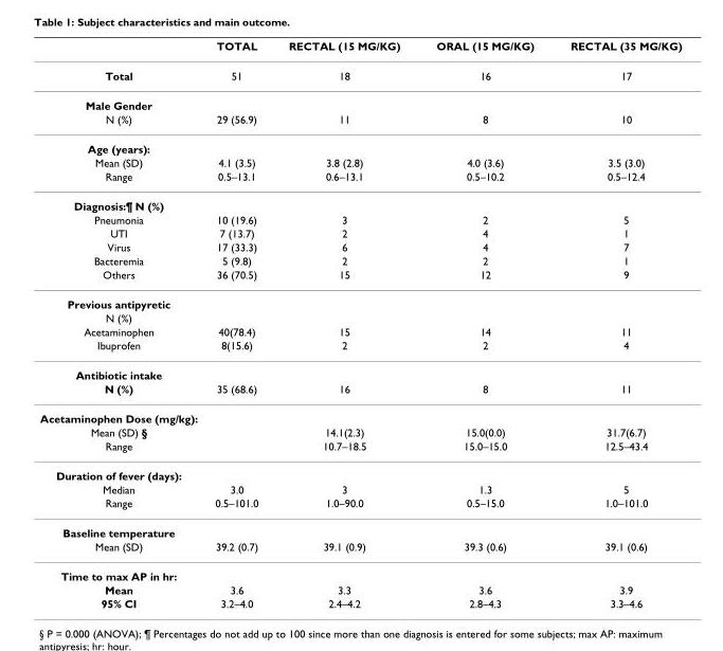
<table><thead><tr><td></td><td>TOTAL</td><td>RECTAL (15 MG/KG)</td><td>ORAL (15 MG/KG)</td><td>RECTAL (35 MG/KG)</td></tr></thead><tbody><tr><td>Total</td><td>51</td><td>18</td><td>16</td><td>17</td></tr><tr><td colspan="5">Male Gender</td></tr><tr><td>N (%)</td><td>29 (56.9)</td><td>11</td><td>8</td><td>10</td></tr><tr><td colspan="5">Age (years):</td></tr><tr><td>Mean (SD)</td><td>4.1 (3.5)</td><td>3.8 (2.8)</td><td>4.0 (3.6)</td><td>3.5 (3.0)</td></tr><tr><td>Range</td><td>0.5–13.1</td><td>0.6–13.1</td><td>0.5–10.2</td><td>0.5–12.4</td></tr><tr><td colspan="5">Diagnosis:¶ N (%)</td></tr><tr><td>Pneumonia</td><td>10 (19.6)</td><td>3</td><td>2</td><td>5</td></tr><tr><td>UTI</td><td>7 (13.7)</td><td>2</td><td>4</td><td>1</td></tr><tr><td>Virus</td><td>17 (33.3)</td><td>6</td><td>4</td><td>7</td></tr><tr><td>Bacteremia</td><td>5 (9.8)</td><td>2</td><td>2</td><td>1</td></tr><tr><td>Others</td><td>36 (70.5)</td><td>15</td><td>12</td><td>9</td></tr><tr><td colspan="5">Previous antipyretic</td></tr><tr><td colspan="5">N (%)</td></tr><tr><td>Acetaminophen</td><td>40(78.4)</td><td>15</td><td>14</td><td>11</td></tr><tr><td>Ibuprofen</td><td>8(15.6)</td><td>2</td><td>2</td><td>4</td></tr><tr><td colspan="5">Antibiotic intake</td></tr><tr><td>N (%)</td><td>35 (68.6)</td><td>16</td><td>8</td><td>11</td></tr><tr><td colspan="5">Acetaminophen Dose (mg/kg):</td></tr><tr><td>Mean (SD) §</td><td></td><td>14.1(2.3)</td><td>15.0(0.0)</td><td>31.7(6.7)</td></tr><tr><td>Range</td><td></td><td>10.7–18.5</td><td>15.0–15.0</td><td>12.5–43.4</td></tr><tr><td colspan="5">Duration of fever (days):</td></tr><tr><td>Median</td><td>3.0</td><td>3</td><td>1.3</td><td>5</td></tr><tr><td>Range</td><td>0.5–101.0</td><td>1.0–90.0</td><td>0.5–15.0</td><td>1.0–101.0</td></tr><tr><td colspan="5">Baseline temperature</td></tr><tr><td>Mean (SD)</td><td>39.2 (0.7)</td><td>39.1 (0.9)</td><td>39.3 (0.6)</td><td>39.1 (0.6)</td></tr><tr><td colspan="5">Time to max AP in hr:</td></tr><tr><td>Mean</td><td>3.6</td><td>3.3</td><td>3.6</td><td>3.9</td></tr><tr><td>95% CI</td><td>3.2–4.0</td><td>2.4–4.2</td><td>2.8–4.3</td><td>3.3–4.6</td></tr></tbody></table>